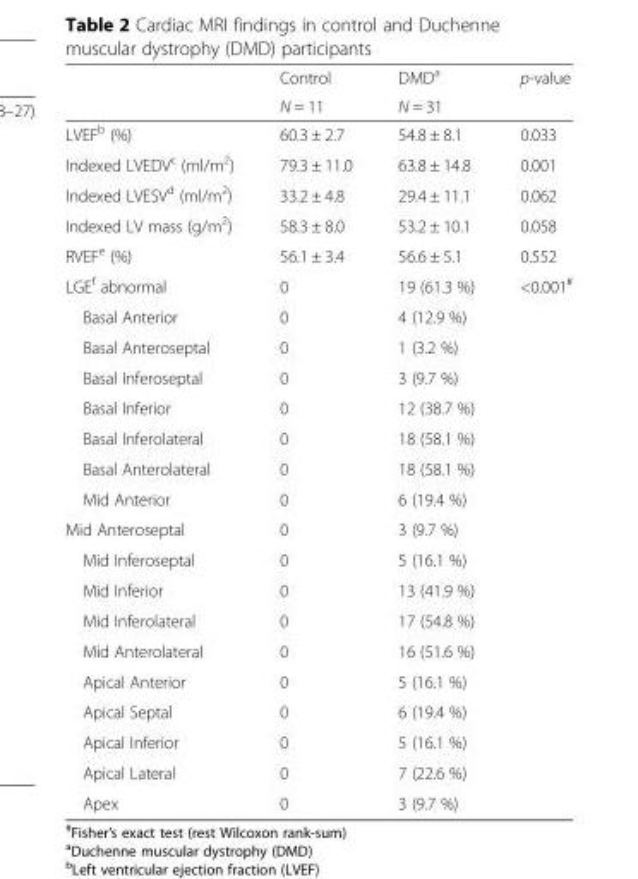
<table><thead><tr><td rowspan="2"></td><td rowspan="2">Control N = 11</td><td rowspan="2">DMD<sup>a</sup> N = 31</td><td rowspan="2">p-value</td></tr><tr></tr></thead><tbody><tr><td>LVEF<sup>b</sup> (%)</td><td>60.3 ± 2.7</td><td>54.8 ± 8.1</td><td>0.033</td></tr><tr><td>Indexed LVEDV<sup>c</sup> (ml/m<sup>2</sup>)</td><td>79.3 ± 11.0</td><td>63.8 ± 14.8</td><td>0.001</td></tr><tr><td>Indexed LVESV<sup>d</sup> (ml/m<sup>2</sup>)</td><td>33.2 ± 4.8</td><td>29.4 ± 11.1</td><td>0.062</td></tr><tr><td>Indexed LV mass (g/m<sup>2</sup>)</td><td>58.3 ± 8.0</td><td>53.2 ± 10.1</td><td>0.058</td></tr><tr><td>RVEF<sup>e</sup> (%)</td><td>56.1 ± 3.4</td><td>56.6 ± 5.1</td><td>0.552</td></tr><tr><td>LGE<sup>f</sup> abnormal</td><td>0</td><td>19 (61.3 %)</td><td>&lt;0.001<sup>#</sup></td></tr><tr><td>Basal Anterior</td><td>0</td><td>4 (12.9 %)</td><td></td></tr><tr><td>Basal Anteroseptal</td><td>0</td><td>1 (3.2 %)</td><td></td></tr><tr><td>Basal Inferoseptal</td><td>0</td><td>3 (9.7 %)</td><td></td></tr><tr><td>Basal Inferior</td><td>0</td><td>12 (38.7 %)</td><td></td></tr><tr><td>Basal Inferolateral</td><td>0</td><td>18 (58.1 %)</td><td></td></tr><tr><td>Basal Anterolateral</td><td>0</td><td>18 (58.1 %)</td><td></td></tr><tr><td>Mid Anterior</td><td>0</td><td>6 (19.4 %)</td><td></td></tr><tr><td>Mid Anteroseptal</td><td>0</td><td>3 (9.7 %)</td><td></td></tr><tr><td>Mid Inferoseptal</td><td>0</td><td>5 (16.1 %)</td><td></td></tr><tr><td>Mid Inferior</td><td>0</td><td>13 (41.9 %)</td><td></td></tr><tr><td>Mid Inferolateral</td><td>0</td><td>17 (54.8 %)</td><td></td></tr><tr><td>Mid Anterolateral</td><td>0</td><td>16 (51.6 %)</td><td></td></tr><tr><td>Apical Anterior</td><td>0</td><td>5 (16.1 %)</td><td></td></tr><tr><td>Apical Septal</td><td>0</td><td>6 (19.4 %)</td><td></td></tr><tr><td>Apical Inferior</td><td>0</td><td>5 (16.1 %)</td><td></td></tr><tr><td>Apical Lateral</td><td>0</td><td>7 (22.6 %)</td><td></td></tr><tr><td>Apex</td><td>0</td><td>3 (9.7 %)</td><td></td></tr></tbody></table>